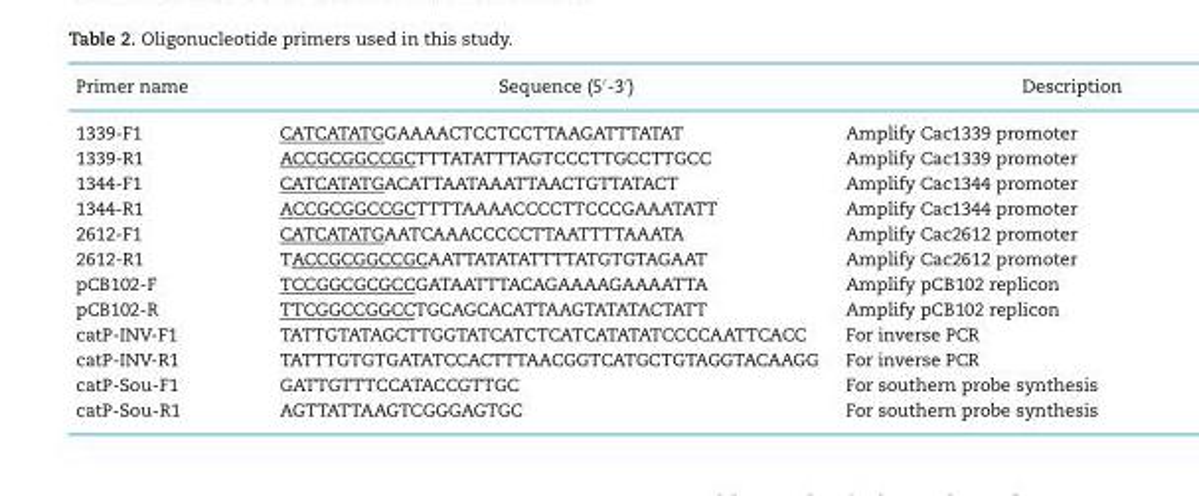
<table><thead><tr><td>Primer name</td><td>Sequence (5′-3′)</td><td>Description</td></tr></thead><tbody><tr><td>1339-F1</td><td>CATCATATGGAAAACTCCTCCTTAAGATTTATAT</td><td>Amplify Cac1339 promoter</td></tr><tr><td>1339-R1</td><td>ACCGCGGCCGCTTTATATTTAGTCCCTTGCCTTGCC</td><td>Amplify Cac1339 promoter</td></tr><tr><td>1344-F1</td><td>CATCATATGACATTAATAAATTAACTGTTATACT</td><td>Amplify Cac1344 promoter</td></tr><tr><td>1344-R1</td><td>ACCGCGGCCGCTTTTAAAACCCCTTCCCGAAATATT</td><td>Amplify Cac1344 promoter</td></tr><tr><td>2612-F1</td><td>CATCATATGAATCAAACCCCCTTAATTTTAAATA</td><td>Amplify Cac2612 promoter</td></tr><tr><td>2612-R1</td><td>TACCGCGGCCGCAATTATATATTTTATGTGTAGAAT</td><td>Amplify Cac2612 promoter</td></tr><tr><td>pCB102-F</td><td>TCCGGCGCGCCGATAATTTACAGAAAAGAAAATTA</td><td>Amplify pCB102 replicon</td></tr><tr><td>pCB102-R</td><td>TTCGGCCGGCCTGCAGCACATTAAGTATATACTATT</td><td>Amplify pCB102 replicon</td></tr><tr><td>catP-INV-F1</td><td>TATTGTATAGCTTGGTATCATCTCATCATATATCCCCAATTCACC</td><td>For inverse PCR</td></tr><tr><td>catP-INV-R1</td><td>TATTTGTGTGATATCCACTTTAACGGTCATGCTGTAGGTACAAGG</td><td>For inverse PCR</td></tr><tr><td>catP-Sou-F1</td><td>GATTGTTTCCATACCGTTGC</td><td>For southern probe synthesis</td></tr><tr><td>catP-Sou-R1</td><td>AGTTATTAAGTCGGGAGTGC</td><td>For southern probe synthesis</td></tr></tbody></table>